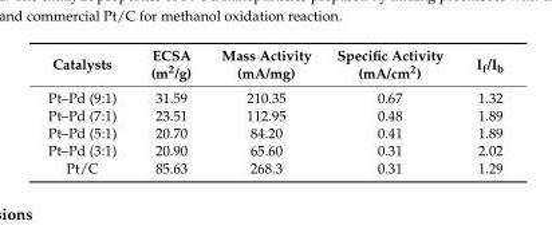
<table><thead><tr><td>Catalysts</td><td>ECSA (m<sup>2</sup>/g)</td><td>Mass Activity (mA/mg)</td><td>Specific Activity (mA/cm<sup>2</sup>)</td><td>I<sub>f</sub>/I<sub>b</sub></td></tr></thead><tbody><tr><td>Pt–Pd (9:1)</td><td>31.59</td><td>210.35</td><td>0.67</td><td>1.32</td></tr><tr><td>Pt–Pd (7:1)</td><td>23.51</td><td>112.95</td><td>0.48</td><td>1.89</td></tr><tr><td>Pt–Pd (5:1)</td><td>20.70</td><td>84.20</td><td>0.41</td><td>1.89</td></tr><tr><td>Pt–Pd (3:1)</td><td>20.90</td><td>65.60</td><td>0.31</td><td>2.02</td></tr><tr><td>Pt/C</td><td>85.63</td><td>268.3</td><td>0.31</td><td>1.29</td></tr></tbody></table>